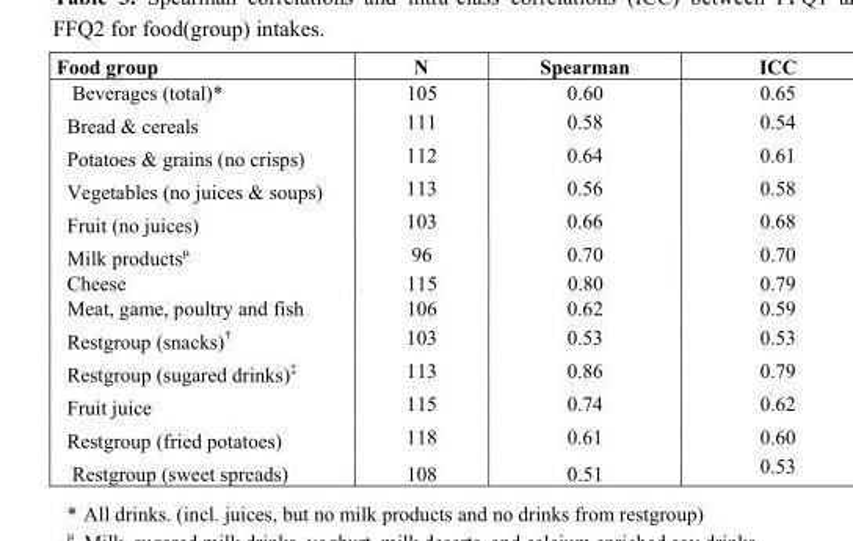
<table><thead><tr><td>Food group</td><td>N</td><td>Spearman</td><td>ICC</td></tr></thead><tbody><tr><td>Beverages (total)*</td><td>105</td><td>0.60</td><td>0.65</td></tr><tr><td>Bread &amp; cereals</td><td>111</td><td>0.58</td><td>0.54</td></tr><tr><td>Potatoes &amp; grains (no crisps)</td><td>112</td><td>0.64</td><td>0.61</td></tr><tr><td>Vegetables (no juices &amp; soups)</td><td>113</td><td>0.56</td><td>0.58</td></tr><tr><td>Fruit (no juices)</td><td>103</td><td>0.66</td><td>0.68</td></tr><tr><td>Milk productsµ</td><td>96</td><td>0.70</td><td>0.70</td></tr><tr><td>Cheese</td><td>115</td><td>0.80</td><td>0.79</td></tr><tr><td>Meat, game, poultry and fish</td><td>106</td><td>0.62</td><td>0.59</td></tr><tr><td>Restgroup (snacks)†</td><td>103</td><td>0.53</td><td>0.53</td></tr><tr><td>Restgroup (sugared drinks)‡</td><td>113</td><td>0.86</td><td>0.79</td></tr><tr><td>Fruit juice</td><td>115</td><td>0.74</td><td>0.62</td></tr><tr><td>Restgroup (fried potatoes)</td><td>118</td><td>0.61</td><td>0.60</td></tr><tr><td>Restgroup (sweet spreads)</td><td>108</td><td>0.51</td><td>0.53</td></tr></tbody></table>